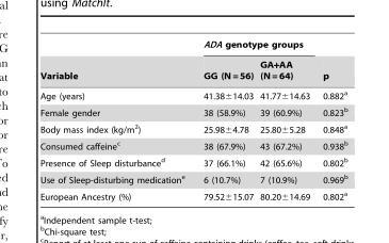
<table><thead><tr><td rowspan="2">Variable</td><td colspan="2">ADA genotype groups</td><td rowspan="2">p</td></tr><tr><td>GG (N = 56)</td><td>GA+AA (N = 64)</td></tr></thead><tbody><tr><td>Age (years)</td><td>41.38±14.03</td><td>41.77±14.63</td><td>0.882<sup>a</sup></td></tr><tr><td>Female gender</td><td>38 (58.9%)</td><td>39 (60.9%)</td><td>0.823<sup>b</sup></td></tr><tr><td>Body mass index (kg/m<sup>2</sup>)</td><td>25.98±4.78</td><td>25.80±5.28</td><td>0.848<sup>a</sup></td></tr><tr><td>Consumed caffeine<sup>c</sup></td><td>38 (67.9%)</td><td>43 (67.2%)</td><td>0.938<sup>b</sup></td></tr><tr><td>Presence of Sleep disturbance<sup>d</sup></td><td>37 (66.1%)</td><td>42 (65.6%)</td><td>0.802<sup>b</sup></td></tr><tr><td>Use of Sleep-disturbing medication<sup>e</sup></td><td>6 (10.7%)</td><td>7 (10.9%)</td><td>0.969<sup>b</sup></td></tr><tr><td>European Ancestry (%)</td><td>79.52±15.07</td><td>80.20±14.69</td><td>0.802<sup>a</sup></td></tr></tbody></table>